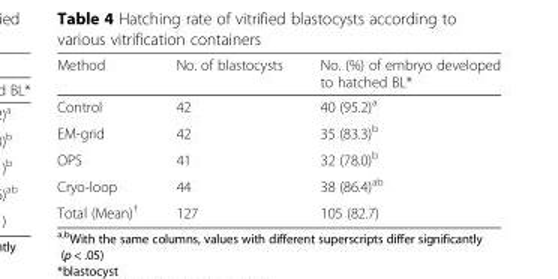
<table><thead><tr><td>Method</td><td>No. of blastocysts</td><td>No. (%) of embryo developed to hatched BL*</td></tr></thead><tbody><tr><td>Control</td><td>42</td><td>40 (95.2)<sup>a</sup></td></tr><tr><td>EM-grid</td><td>42</td><td>35 (83.3)<sup>b</sup></td></tr><tr><td>OPS</td><td>41</td><td>32 (78.0)<sup>b</sup></td></tr><tr><td>Cryo-loop</td><td>44</td><td>38 (86.4)<sup>ab</sup></td></tr><tr><td>Total (Mean)<sup>†</sup></td><td>127</td><td>105 (82.7)</td></tr></tbody></table>